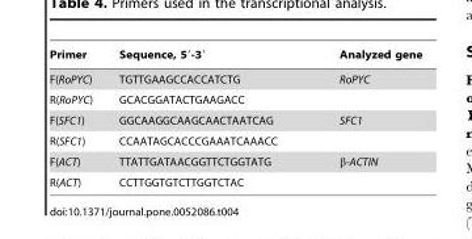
<table><thead><tr><td>Primer</td><td>Sequence, 5′-3′</td><td>Analyzed gene</td></tr></thead><tbody><tr><td>F(RoPYC)</td><td>TGTTGAAGCCACCATCTG</td><td>RoPYC</td></tr><tr><td>R(RoPYC)</td><td>GCACGGATACTGAAGACC</td><td></td></tr><tr><td>F(SFC1)</td><td>GGCAAGGCAAGCAACTAATCAG</td><td>SFC1</td></tr><tr><td>R(SFC1)</td><td>CCAATAGCACCCGAAATCAAACC</td><td></td></tr><tr><td>F(ACT)</td><td>TTATTGATAACGGTTCTGGTATG</td><td>β-ACTIN</td></tr><tr><td>R(ACT)</td><td>CCTTGGTGTCTTGGTCTAC</td><td></td></tr></tbody></table>